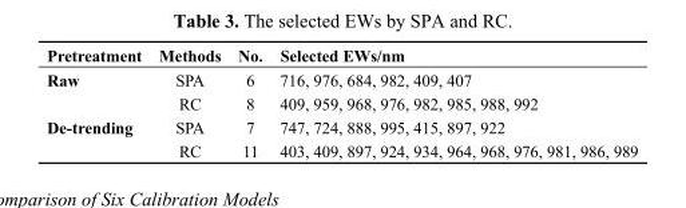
<table><thead><tr><td>Pretreatment</td><td>Methods</td><td>No.</td><td>Selected EWs/nm</td></tr></thead><tbody><tr><td rowspan="2">Raw</td><td>SPA</td><td>6</td><td>716, 976, 684, 982, 409, 407</td></tr><tr><td>RC</td><td>8</td><td>409, 959, 968, 976, 982, 985, 988, 992</td></tr><tr><td rowspan="2">De-trending</td><td>SPA</td><td>7</td><td>747, 724, 888, 995, 415, 897, 922</td></tr><tr><td>RC</td><td>11</td><td>403, 409, 897, 924, 934, 964, 968, 976, 981, 986, 989</td></tr></tbody></table>